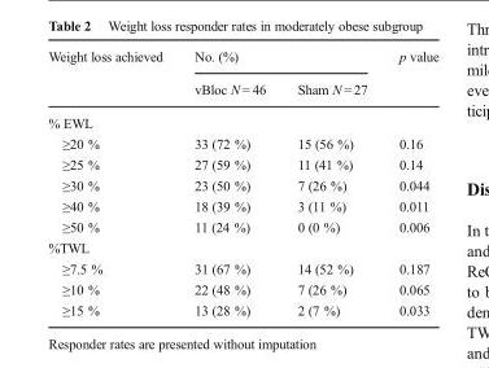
<table><thead><tr><td rowspan="2">Weight loss achieved</td><td colspan="2">No. (%)</td><td rowspan="2">p value</td></tr><tr><td>vBloc N = 46</td><td>Sham N = 27</td></tr></thead><tbody><tr><td colspan="4">% EWL</td></tr><tr><td>≥20 %</td><td>33 (72 %)</td><td>15 (56 %)</td><td>0.16</td></tr><tr><td>≥25 %</td><td>27 (59 %)</td><td>11 (41 %)</td><td>0.14</td></tr><tr><td>≥30 %</td><td>23 (50 %)</td><td>7 (26 %)</td><td>0.044</td></tr><tr><td>≥40 %</td><td>18 (39 %)</td><td>3 (11 %)</td><td>0.011</td></tr><tr><td>≥50 %</td><td>11 (24 %)</td><td>0 (0 %)</td><td>0.006</td></tr><tr><td colspan="4">%TWL</td></tr><tr><td>≥7.5 %</td><td>31 (67 %)</td><td>14 (52 %)</td><td>0.187</td></tr><tr><td>≥10 %</td><td>22 (48 %)</td><td>7 (26 %)</td><td>0.065</td></tr><tr><td>≥15 %</td><td>13 (28 %)</td><td>2 (7 %)</td><td>0.033</td></tr></tbody></table>